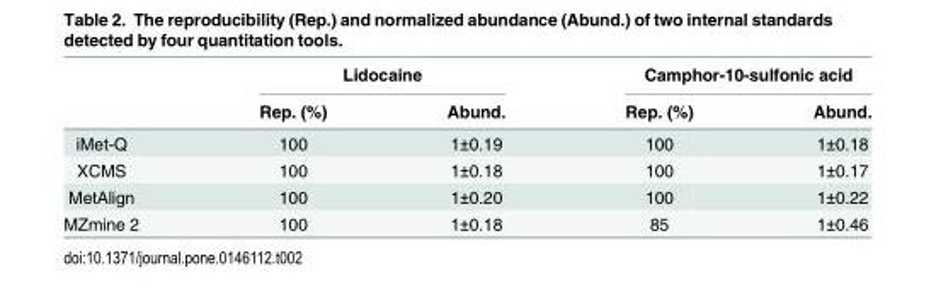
<table><thead><tr><td rowspan="2"></td><td colspan="2">Lidocaine</td><td colspan="2">Camphor-10-sulfonic acid</td></tr><tr><td>Rep. (%)</td><td>Abund.</td><td>Rep. (%)</td><td>Abund.</td></tr></thead><tbody><tr><td>iMet-Q</td><td>100</td><td>1±0.19</td><td>100</td><td>1±0.18</td></tr><tr><td>XCMS</td><td>100</td><td>1±0.18</td><td>100</td><td>1±0.17</td></tr><tr><td>MetAlign</td><td>100</td><td>1±0.20</td><td>100</td><td>1±0.22</td></tr><tr><td>MZmine 2</td><td>100</td><td>1±0.18</td><td>85</td><td>1±0.46</td></tr></tbody></table>